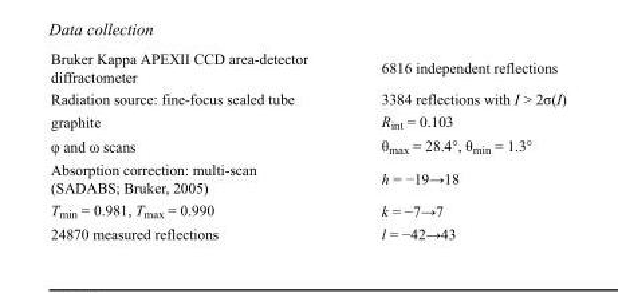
<table><tbody><tr><td>Bruker Kappa APEXII CCD area-detector diffractometer</td><td>6816 independent reflections</td></tr><tr><td>Radiation source: fine-focus sealed tube</td><td>3384 reflections with I &gt; 2σ(I)</td></tr><tr><td>graphite</td><td>R<sub>int</sub> = 0.103</td></tr><tr><td>φ and ω scans</td><td>θ<sub>max</sub> = 28.4°, θ<sub>min</sub> = 1.3°</td></tr><tr><td>Absorption correction: multi-scan (SADABS; Bruker, 2005)</td><td>h = −19→18</td></tr><tr><td>T<sub>min</sub> = 0.981, T<sub>max</sub> = 0.990</td><td>k = −7→7</td></tr><tr><td>24870 measured reflections</td><td>l = −42→43</td></tr></tbody></table>